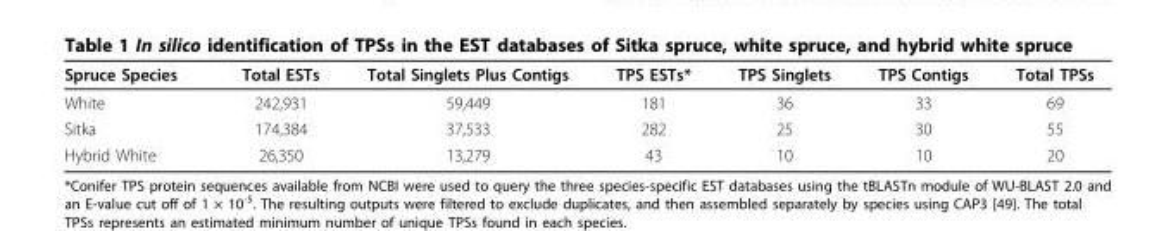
<table><thead><tr><td>Spruce Species</td><td>Total ESTs</td><td>Total Singlets Plus Contigs</td><td>TPS ESTs*</td><td>TPS Singlets</td><td>TPS Contigs</td><td>Total TPSs</td></tr></thead><tbody><tr><td>White</td><td>242,931</td><td>59,449</td><td>181</td><td>36</td><td>33</td><td>69</td></tr><tr><td>Sitka</td><td>174,384</td><td>37,533</td><td>282</td><td>25</td><td>30</td><td>55</td></tr><tr><td>Hybrid White</td><td>26,350</td><td>13,279</td><td>43</td><td>10</td><td>10</td><td>20</td></tr></tbody></table>